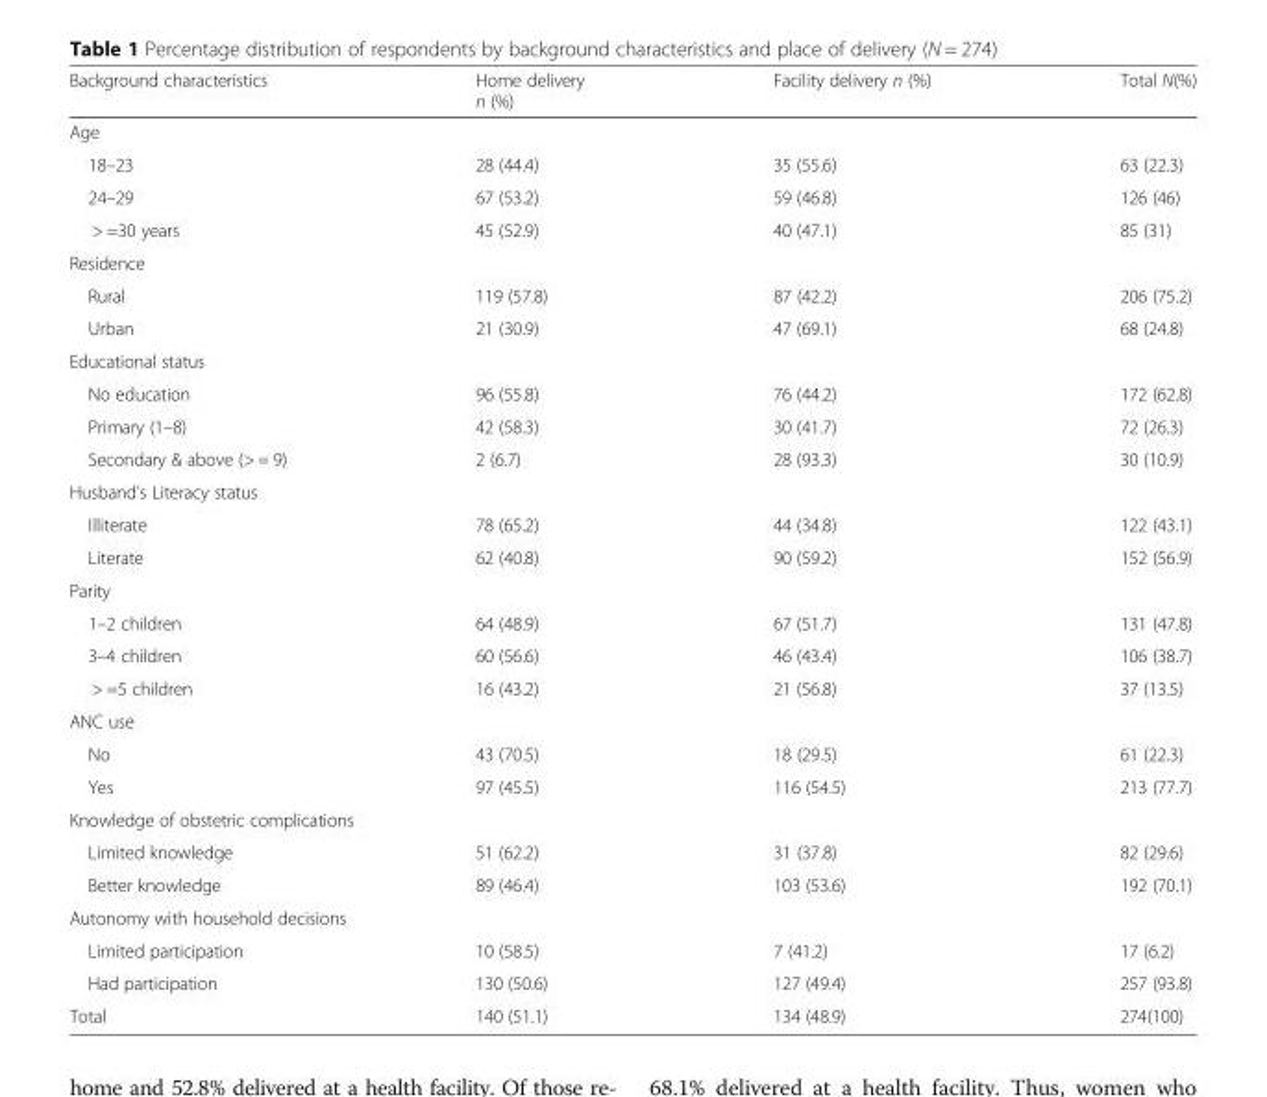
<table><thead><tr><td>Background characteristics</td><td>Home delivery n (%)</td><td>Facility delivery n (%)</td><td>Total N(%)</td></tr></thead><tbody><tr><td colspan="4">Age</td></tr><tr><td>18–23</td><td>28 (44.4)</td><td>35 (55.6)</td><td>63 (22.3)</td></tr><tr><td>24–29</td><td>67 (53.2)</td><td>59 (46.8)</td><td>126 (46)</td></tr><tr><td>&gt; =30 years</td><td>45 (52.9)</td><td>40 (47.1)</td><td>85 (31)</td></tr><tr><td colspan="4">Residence</td></tr><tr><td>Rural</td><td>119 (57.8)</td><td>87 (42.2)</td><td>206 (75.2)</td></tr><tr><td>Urban</td><td>21 (30.9)</td><td>47 (69.1)</td><td>68 (24.8)</td></tr><tr><td colspan="4">Educational status</td></tr><tr><td>No education</td><td>96 (55.8)</td><td>76 (44.2)</td><td>172 (62.8)</td></tr><tr><td>Primary (1–8)</td><td>42 (58.3)</td><td>30 (41.7)</td><td>72 (26.3)</td></tr><tr><td>Secondary &amp; above (&gt; = 9)</td><td>2 (6.7)</td><td>28 (93.3)</td><td>30 (10.9)</td></tr><tr><td colspan="4">Husband’s Literacy status</td></tr><tr><td>Illiterate</td><td>78 (65.2)</td><td>44 (34.8)</td><td>122 (43.1)</td></tr><tr><td>Literate</td><td>62 (40.8)</td><td>90 (59.2)</td><td>152 (56.9)</td></tr><tr><td colspan="4">Parity</td></tr><tr><td>1–2 children</td><td>64 (48.9)</td><td>67 (51.7)</td><td>131 (47.8)</td></tr><tr><td>3–4 children</td><td>60 (56.6)</td><td>46 (43.4)</td><td>106 (38.7)</td></tr><tr><td>&gt; =5 children</td><td>16 (43.2)</td><td>21 (56.8)</td><td>37 (13.5)</td></tr><tr><td colspan="4">ANC use</td></tr><tr><td>No</td><td>43 (70.5)</td><td>18 (29.5)</td><td>61 (22.3)</td></tr><tr><td>Yes</td><td>97 (45.5)</td><td>116 (54.5)</td><td>213 (77.7)</td></tr><tr><td colspan="4">Knowledge of obstetric complications</td></tr><tr><td>Limited knowledge</td><td>51 (62.2)</td><td>31 (37.8)</td><td>82 (29.6)</td></tr><tr><td>Better knowledge</td><td>89 (46.4)</td><td>103 (53.6)</td><td>192 (70.1)</td></tr><tr><td colspan="4">Autonomy with household decisions</td></tr><tr><td>Limited participation</td><td>10 (58.5)</td><td>7 (41.2)</td><td>17 (6.2)</td></tr><tr><td>Had participation</td><td>130 (50.6)</td><td>127 (49.4)</td><td>257 (93.8)</td></tr><tr><td>Total</td><td>140 (51.1)</td><td>134 (48.9)</td><td>274(100)</td></tr></tbody></table>